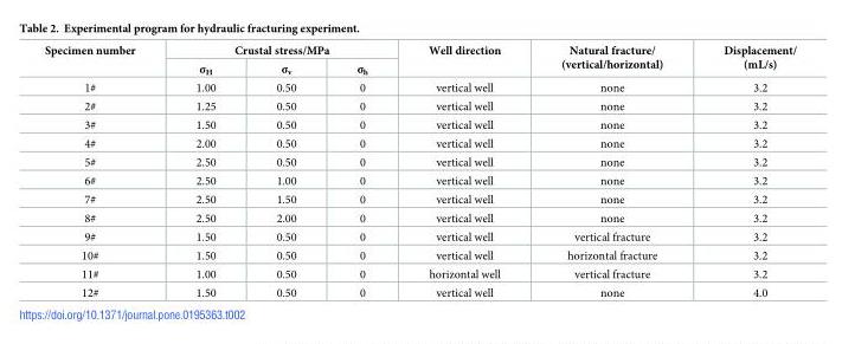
<table><thead><tr><td rowspan="2">Specimen number</td><td colspan="3">Crustal stress/MPa</td><td rowspan="2">Well direction</td><td rowspan="2">Natural fracture/ (vertical/horizontal)</td><td rowspan="2">Displacement/ (mL/s)</td></tr><tr><td>σ<sub>H</sub></td><td>σ<sub>v</sub></td><td>σ<sub>h</sub></td></tr></thead><tbody><tr><td>1#</td><td>1.00</td><td>0.50</td><td>0</td><td>vertical well</td><td>none</td><td>3.2</td></tr><tr><td>2#</td><td>1.25</td><td>0.50</td><td>0</td><td>vertical well</td><td>none</td><td>3.2</td></tr><tr><td>3#</td><td>1.50</td><td>0.50</td><td>0</td><td>vertical well</td><td>none</td><td>3.2</td></tr><tr><td>4#</td><td>2.00</td><td>0.50</td><td>0</td><td>vertical well</td><td>none</td><td>3.2</td></tr><tr><td>5#</td><td>2.50</td><td>0.50</td><td>0</td><td>vertical well</td><td>none</td><td>3.2</td></tr><tr><td>6#</td><td>2.50</td><td>1.00</td><td>0</td><td>vertical well</td><td>none</td><td>3.2</td></tr><tr><td>7#</td><td>2.50</td><td>1.50</td><td>0</td><td>vertical well</td><td>none</td><td>3.2</td></tr><tr><td>8#</td><td>2.50</td><td>2.00</td><td>0</td><td>vertical well</td><td>none</td><td>3.2</td></tr><tr><td>9#</td><td>1.50</td><td>0.50</td><td>0</td><td>vertical well</td><td>vertical fracture</td><td>3.2</td></tr><tr><td>10#</td><td>1.50</td><td>0.50</td><td>0</td><td>vertical well</td><td>horizontal fracture</td><td>3.2</td></tr><tr><td>11#</td><td>1.00</td><td>0.50</td><td>0</td><td>horizontal well</td><td>vertical fracture</td><td>3.2</td></tr><tr><td>12#</td><td>1.50</td><td>0.50</td><td>0</td><td>vertical well</td><td>none</td><td>4.0</td></tr></tbody></table>